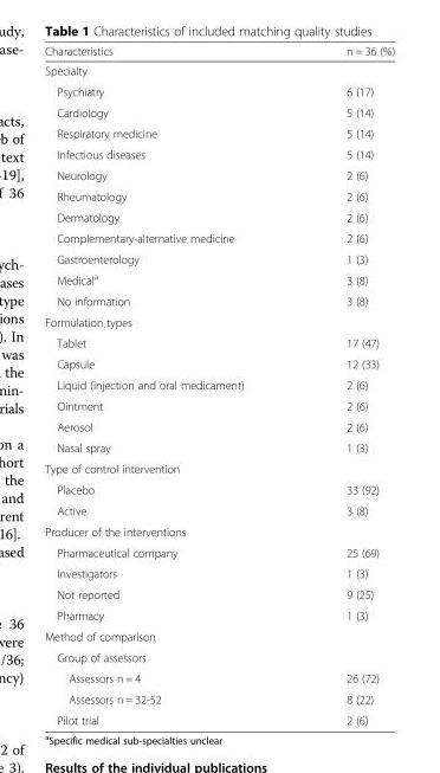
<table><thead><tr><td>Characteristics</td><td>n = 36 (%)</td></tr></thead><tbody><tr><td colspan="2">Specialty</td></tr><tr><td>Psychiatry</td><td>6 (17)</td></tr><tr><td>Cardiology</td><td>5 (14)</td></tr><tr><td>Respiratory medicine</td><td>5 (14)</td></tr><tr><td>Infectious diseases</td><td>5 (14)</td></tr><tr><td>Neurology</td><td>2 (6)</td></tr><tr><td>Rheumatology</td><td>2 (6)</td></tr><tr><td>Dermatology</td><td>2 (6)</td></tr><tr><td>Complementary-alternative medicine</td><td>2 (6)</td></tr><tr><td>Gastroenterology</td><td>1 (3)</td></tr><tr><td>Medical<sup>a</sup></td><td>3 (8)</td></tr><tr><td>No information</td><td>3 (8)</td></tr><tr><td colspan="2">Formulation types</td></tr><tr><td>Tablet</td><td>17 (47)</td></tr><tr><td>Capsule</td><td>12 (33)</td></tr><tr><td>Liquid (injection and oral medicament)</td><td>2 (6)</td></tr><tr><td>Ointment</td><td>2 (6)</td></tr><tr><td>Aerosol</td><td>2 (6)</td></tr><tr><td>Nasal spray</td><td>1 (3)</td></tr><tr><td colspan="2">Type of control intervention</td></tr><tr><td>Placebo</td><td>33 (92)</td></tr><tr><td>Active</td><td>3 (8)</td></tr><tr><td colspan="2">Producer of the interventions</td></tr><tr><td>Pharmaceutical company</td><td>25 (69)</td></tr><tr><td>Investigators</td><td>1 (3)</td></tr><tr><td>Not reported</td><td>9 (25)</td></tr><tr><td>Pharmacy</td><td>1 (3)</td></tr><tr><td colspan="2">Method of comparison</td></tr><tr><td colspan="2">Group of assessors</td></tr><tr><td>Assessors n = 4</td><td>26 (72)</td></tr><tr><td>Assessors n = 32-52</td><td>8 (22)</td></tr><tr><td>Pilot trial</td><td>2 (6)</td></tr></tbody></table>